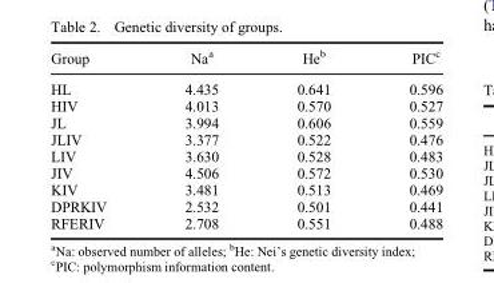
<table><thead><tr><td>Group</td><td>Na<sup>a</sup></td><td>He<sup>b</sup></td><td>PIC<sup>c</sup></td></tr></thead><tbody><tr><td>HL</td><td>4.435</td><td>0.641</td><td>0.596</td></tr><tr><td>HIV</td><td>4.013</td><td>0.570</td><td>0.527</td></tr><tr><td>JL</td><td>3.994</td><td>0.606</td><td>0.559</td></tr><tr><td>JLIV</td><td>3.377</td><td>0.522</td><td>0.476</td></tr><tr><td>LIV</td><td>3.630</td><td>0.528</td><td>0.483</td></tr><tr><td>JIV</td><td>4.506</td><td>0.572</td><td>0.530</td></tr><tr><td>KIV</td><td>3.481</td><td>0.513</td><td>0.469</td></tr><tr><td>DPRKIV</td><td>2.532</td><td>0.501</td><td>0.441</td></tr><tr><td>RFERIV</td><td>2.708</td><td>0.551</td><td>0.488</td></tr></tbody></table>